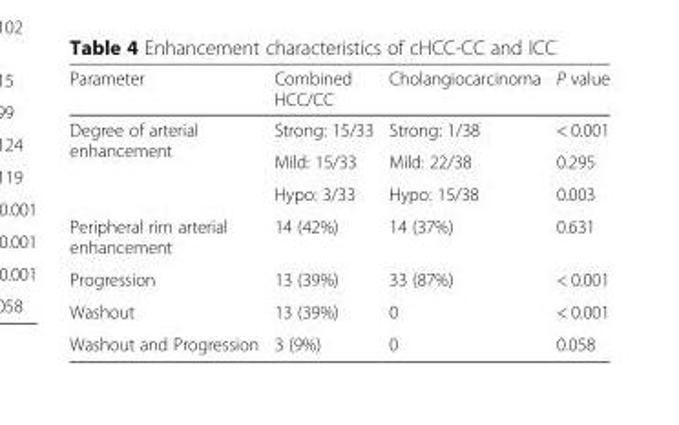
<table><thead><tr><td>Parameter</td><td>Combined HCC/CC</td><td>Cholangiocarcinoma</td><td>P value</td></tr></thead><tbody><tr><td rowspan="3">Degree of arterial enhancement</td><td>Strong: 15/33</td><td>Strong: 1/38</td><td>&lt; 0.001</td></tr><tr><td>Mild: 15/33</td><td>Mild: 22/38</td><td>0.295</td></tr><tr><td>Hypo: 3/33</td><td>Hypo: 15/38</td><td>0.003</td></tr><tr><td>Peripheral rim arterial enhancement</td><td>14 (42%)</td><td>14 (37%)</td><td>0.631</td></tr><tr><td>Progression</td><td>13 (39%)</td><td>33 (87%)</td><td>&lt; 0.001</td></tr><tr><td>Washout</td><td>13 (39%)</td><td>0</td><td>&lt; 0.001</td></tr><tr><td>Washout and Progression</td><td>3 (9%)</td><td>0</td><td>0.058</td></tr></tbody></table>